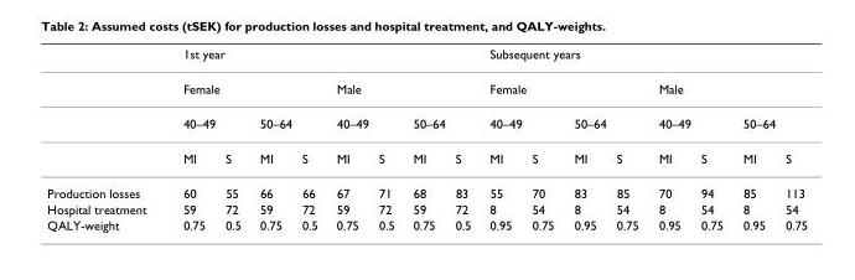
<table><thead><tr><td rowspan="4"></td><td colspan="8">1st year</td><td colspan="8">Subsequent years</td></tr><tr><td colspan="4">Female</td><td colspan="4">Male</td><td colspan="4">Female</td><td colspan="4">Male</td></tr><tr><td colspan="2">40–49</td><td colspan="2">50–64</td><td colspan="2">40–49</td><td colspan="2">50–64</td><td colspan="2">40–49</td><td colspan="2">50–64</td><td colspan="2">40–49</td><td colspan="2">50–64</td></tr><tr><td>MI</td><td>S</td><td>MI</td><td>S</td><td>MI</td><td>S</td><td>MI</td><td>S</td><td>MI</td><td>S</td><td>MI</td><td>S</td><td>MI</td><td>S</td><td>MI</td><td>S</td></tr></thead><tbody><tr><td>Production losses</td><td>60</td><td>55</td><td>66</td><td>66</td><td>67</td><td>71</td><td>68</td><td>83</td><td>55</td><td>70</td><td>83</td><td>85</td><td>70</td><td>94</td><td>85</td><td>113</td></tr><tr><td>Hospital treatment</td><td>59</td><td>72</td><td>59</td><td>72</td><td>59</td><td>72</td><td>59</td><td>72</td><td>8</td><td>54</td><td>8</td><td>54</td><td>8</td><td>54</td><td>8</td><td>54</td></tr><tr><td>QALY-weight</td><td>0.75</td><td>0.5</td><td>0.75</td><td>0.5</td><td>0.75</td><td>0.5</td><td>0.75</td><td>0.5</td><td>0.95</td><td>0.75</td><td>0.95</td><td>0.75</td><td>0.95</td><td>0.75</td><td>0.95</td><td>0.75</td></tr></tbody></table>